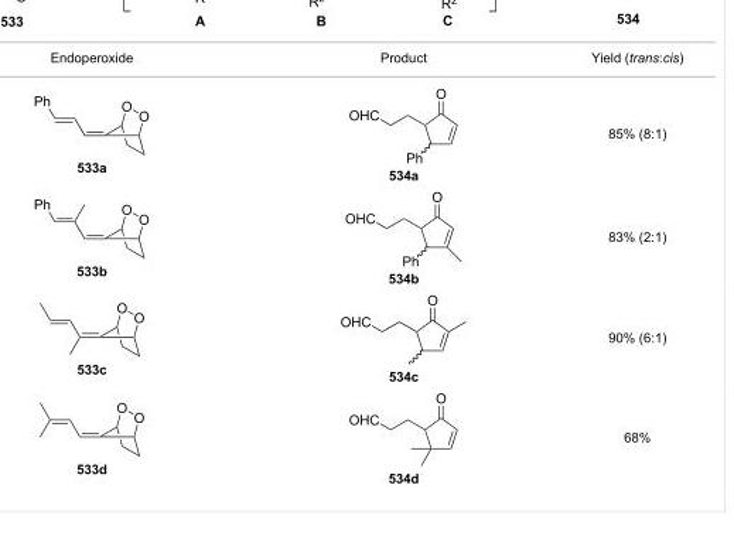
<table><tbody><tr><td>Endoperoxide</td><td>Product</td><td>Yield (trans:cis)</td></tr><tr><td>533a</td><td>534a</td><td>85% (8:1)</td></tr><tr><td>533b</td><td>534b</td><td>83% (2:1)</td></tr><tr><td>533c</td><td>534c</td><td>90% (6:1)</td></tr><tr><td>533d</td><td>534d</td><td>68%</td></tr></tbody></table>